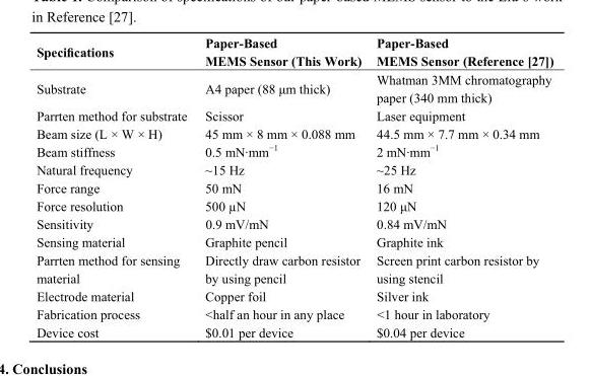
<table><thead><tr><td>Specifications</td><td>Paper-Based MEMS Sensor (This Work)</td><td>Paper-Based MEMS Sensor (Reference [27])</td></tr></thead><tbody><tr><td>Substrate</td><td>A4 paper (88 μm thick)</td><td>Whatman 3MM chromatography paper (340 mm thick)</td></tr><tr><td>Parrten method for substrate</td><td>Scissor</td><td>Laser equipment</td></tr><tr><td>Beam size (L × W × H)</td><td>45 mm × 8 mm × 0.088 mm</td><td>44.5 mm × 7.7 mm × 0.34 mm</td></tr><tr><td>Beam stiffness</td><td>0.5 mN·mm<sup>−1</sup></td><td>2 mN·mm<sup>−1</sup></td></tr><tr><td>Natural frequency</td><td>~15 Hz</td><td>~25 Hz</td></tr><tr><td>Force range</td><td>50 mN</td><td>16 mN</td></tr><tr><td>Force resolution</td><td>500 µN</td><td>120 μN</td></tr><tr><td>Sensitivity</td><td>0.9 mV/mN</td><td>0.84 mV/mN</td></tr><tr><td>Sensing material</td><td>Graphite pencil</td><td>Graphite ink</td></tr><tr><td>Parrten method for sensing material</td><td>Directly draw carbon resistor by using pencil</td><td>Screen print carbon resistor by using stencil</td></tr><tr><td>Electrode material</td><td>Copper foil</td><td>Silver ink</td></tr><tr><td>Fabrication process</td><td>&lt;half an hour in any place</td><td>&lt;1 hour in laboratory</td></tr><tr><td>Device cost</td><td>$0.01 per device</td><td>$0.04 per device</td></tr></tbody></table>